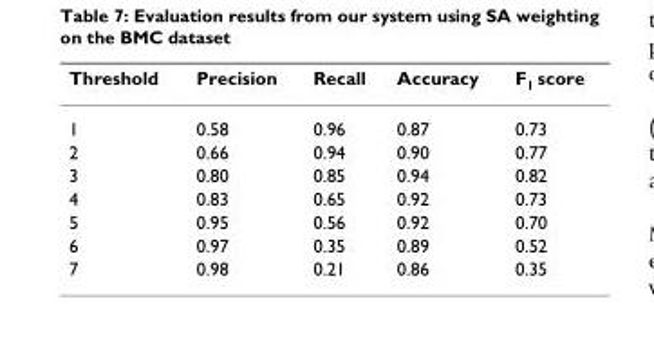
<table><thead><tr><td>Threshold</td><td>Precision</td><td>Recall</td><td>Accuracy</td><td>F<sub>1</sub> score</td></tr></thead><tbody><tr><td>1</td><td>0.58</td><td>0.96</td><td>0.87</td><td>0.73</td></tr><tr><td>2</td><td>0.66</td><td>0.94</td><td>0.90</td><td>0.77</td></tr><tr><td>3</td><td>0.80</td><td>0.85</td><td>0.94</td><td>0.82</td></tr><tr><td>4</td><td>0.83</td><td>0.65</td><td>0.92</td><td>0.73</td></tr><tr><td>5</td><td>0.95</td><td>0.56</td><td>0.92</td><td>0.70</td></tr><tr><td>6</td><td>0.97</td><td>0.35</td><td>0.89</td><td>0.52</td></tr><tr><td>7</td><td>0.98</td><td>0.21</td><td>0.86</td><td>0.35</td></tr></tbody></table>